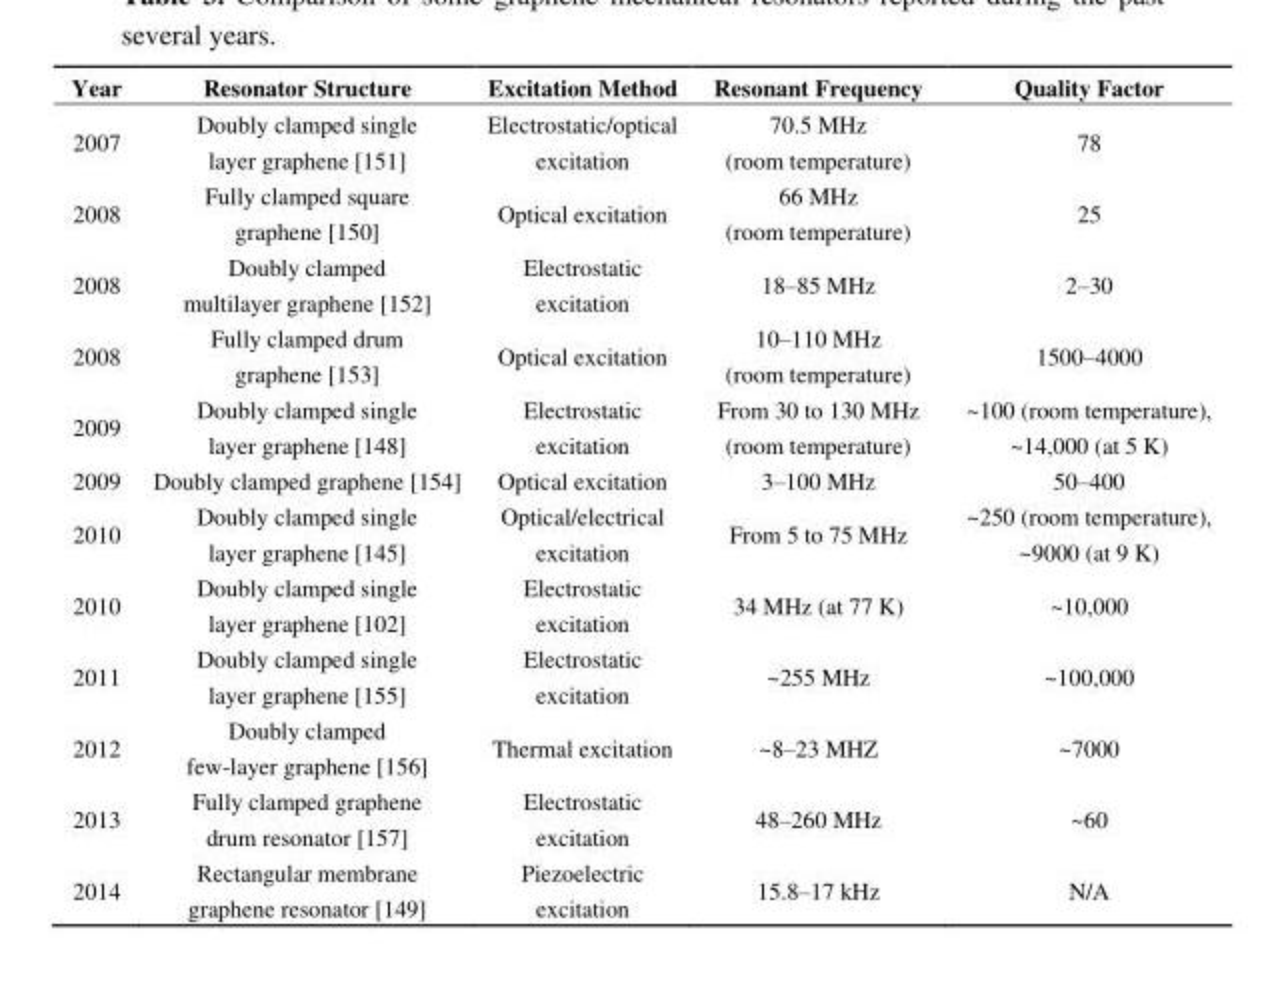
<table><thead><tr><td>Year</td><td>Resonator Structure</td><td>Excitation Method</td><td>Resonant Frequency</td><td>Quality Factor</td></tr></thead><tbody><tr><td>2007</td><td>Doubly clamped single layer graphene [151]</td><td>Electrostatic/optical excitation</td><td>70.5 MHz (room temperature)</td><td>78</td></tr><tr><td>2008</td><td>Fully clamped square graphene [150]</td><td>Optical excitation</td><td>66 MHz (room temperature)</td><td>25</td></tr><tr><td>2008</td><td>Doubly clamped multilayer graphene [152]</td><td>Electrostatic excitation</td><td>18–85 MHz</td><td>2–30</td></tr><tr><td>2008</td><td>Fully clamped drum graphene [153]</td><td>Optical excitation</td><td>10–110 MHz (room temperature)</td><td>1500–4000</td></tr><tr><td>2009</td><td>Doubly clamped single layer graphene [148]</td><td>Electrostatic excitation</td><td>From 30 to 130 MHz (room temperature)</td><td>~100 (room temperature), ~14,000 (at 5 K)</td></tr><tr><td>2009</td><td>Doubly clamped graphene [154]</td><td>Optical excitation</td><td>3–100 MHz</td><td>50–400</td></tr><tr><td>2010</td><td>Doubly clamped single layer graphene [145]</td><td>Optical/electrical excitation</td><td>From 5 to 75 MHz</td><td>~250 (room temperature), ~9000 (at 9 K)</td></tr><tr><td>2010</td><td>Doubly clamped single layer graphene [102]</td><td>Electrostatic excitation</td><td>34 MHz (at 77 K)</td><td>~10,000</td></tr><tr><td>2011</td><td>Doubly clamped single layer graphene [155]</td><td>Electrostatic excitation</td><td>~255 MHz</td><td>~100,000</td></tr><tr><td>2012</td><td>Doubly clamped few-layer graphene [156]</td><td>Thermal excitation</td><td>~8–23 MHZ</td><td>~7000</td></tr><tr><td>2013</td><td>Fully clamped graphene drum resonator [157]</td><td>Electrostatic excitation</td><td>48–260 MHz</td><td>~60</td></tr><tr><td>2014</td><td>Rectangular membrane graphene resonator [149]</td><td>Piezoelectric excitation</td><td>15.8–17 kHz</td><td>N/A</td></tr></tbody></table>